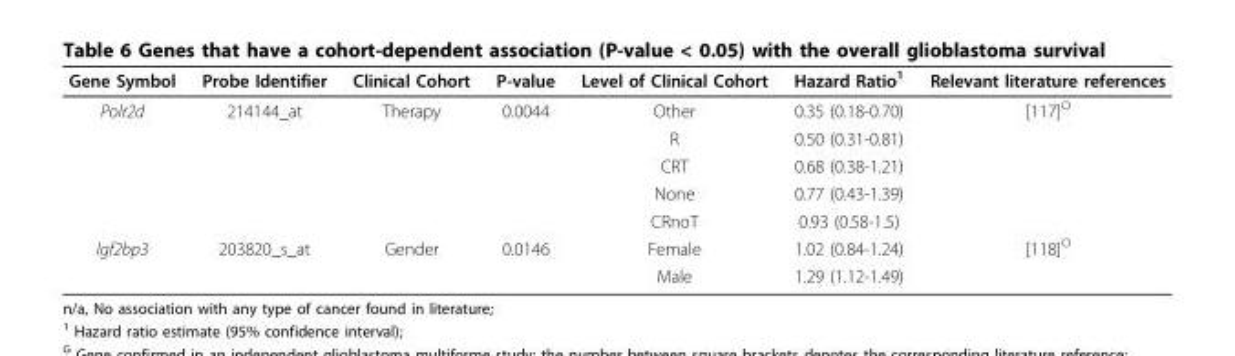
<table><thead><tr><td>Gene Symbol</td><td>Probe Identifier</td><td>Clinical Cohort</td><td>P-value</td><td>Level of Clinical Cohort</td><td>Hazard Ratio<sup>1</sup></td><td>Relevant literature references</td></tr></thead><tbody><tr><td rowspan="5">Polr2d</td><td>214144_at</td><td>Therapy</td><td>0.0044</td><td>Other</td><td>0.35 (0.18-0.70)</td><td>[117]<sup>O</sup></td></tr><tr><td></td><td></td><td></td><td>R</td><td>0.50 (0.31-0.81)</td><td></td></tr><tr><td></td><td></td><td></td><td>CRT</td><td>0.68 (0.38-1.21)</td><td></td></tr><tr><td></td><td></td><td></td><td>None</td><td>0.77 (0.43-1.39)</td><td></td></tr><tr><td></td><td></td><td></td><td>CRnoT</td><td>0.93 (0.58-1.5)</td><td></td></tr><tr><td rowspan="2">Igf2bp3</td><td>203820_s_at</td><td>Gender</td><td>0.0146</td><td>Female</td><td>1.02 (0.84-1.24)</td><td>[118]<sup>O</sup></td></tr><tr><td></td><td></td><td></td><td>Male</td><td>1.29 (1.12-1.49)</td><td></td></tr></tbody></table>